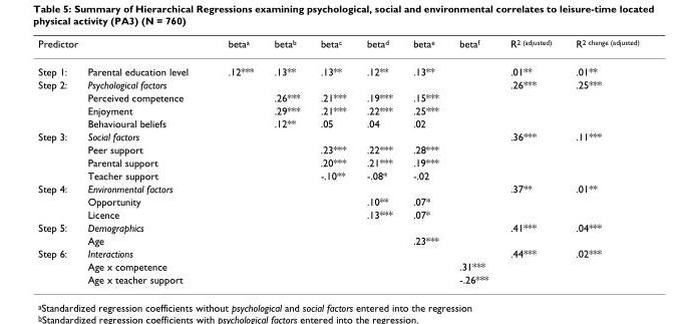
<table><thead><tr><td colspan="2">Predictor</td><td rowspan="2">betaa .12***</td><td rowspan="2">betab .13**</td><td rowspan="2">betac .13**</td><td rowspan="2">betad .12**</td><td rowspan="2">betae .13**</td><td rowspan="2">beta<sup>f</sup></td><td rowspan="2">R<sup>2 (adjusted)</sup> .01**</td><td rowspan="2">R<sup>2 change (adjusted)</sup> .01**</td></tr><tr><td>Step 1:</td><td>Parental education level</td></tr></thead><tbody><tr><td rowspan="4">Step 2:</td><td>Psychological factors</td><td></td><td></td><td></td><td></td><td></td><td></td><td>.26***</td><td>.25***</td></tr><tr><td>Perceived competence</td><td></td><td>.26***</td><td>.21***</td><td>.19***</td><td>.15***</td><td></td><td></td><td></td></tr><tr><td>Enjoyment</td><td></td><td>.29***</td><td>.21***</td><td>.22***</td><td>.25***</td><td></td><td></td><td></td></tr><tr><td>Behavioural beliefs</td><td></td><td>.12**</td><td>.05</td><td>.04</td><td>.02</td><td></td><td></td><td></td></tr><tr><td rowspan="4">Step 3:</td><td>Social factors</td><td></td><td></td><td></td><td></td><td></td><td></td><td>.36***</td><td>.11***</td></tr><tr><td>Peer support</td><td></td><td></td><td>.23***</td><td>.22***</td><td>.28***</td><td></td><td></td><td></td></tr><tr><td>Parental support</td><td></td><td></td><td>.20***</td><td>.21***</td><td>.19***</td><td></td><td></td><td></td></tr><tr><td>Teacher support</td><td></td><td></td><td>-.10**</td><td>-.08*</td><td>-.02</td><td></td><td></td><td></td></tr><tr><td rowspan="3">Step 4:</td><td>Environmental factors</td><td></td><td></td><td></td><td></td><td></td><td></td><td>.37**</td><td>.01**</td></tr><tr><td>Opportunity</td><td></td><td></td><td></td><td>.10**</td><td>.07*</td><td></td><td></td><td></td></tr><tr><td>Licence</td><td></td><td></td><td></td><td>.13***</td><td>.07*</td><td></td><td></td><td></td></tr><tr><td rowspan="2">Step 5:</td><td>Demographics</td><td></td><td></td><td></td><td></td><td></td><td></td><td>.41***</td><td>.04***</td></tr><tr><td>Age</td><td></td><td></td><td></td><td></td><td>.23***</td><td></td><td></td><td></td></tr><tr><td rowspan="3">Step 6:</td><td>Interactions</td><td></td><td></td><td></td><td></td><td></td><td></td><td>.44***</td><td>.02***</td></tr><tr><td>Age x competence</td><td></td><td></td><td></td><td></td><td></td><td>.31***</td><td></td><td></td></tr><tr><td>Age x teacher support</td><td></td><td></td><td></td><td></td><td></td><td>-.26***</td><td></td><td></td></tr></tbody></table>